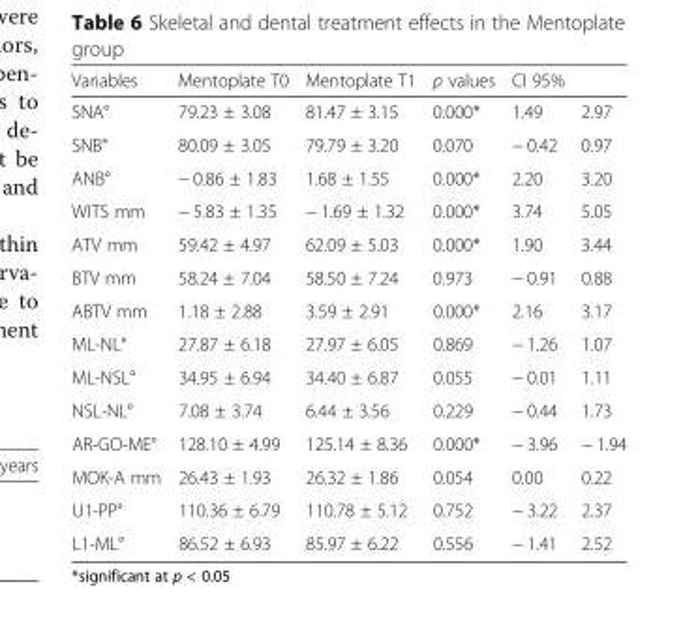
<table><thead><tr><td>Variables</td><td>Mentoplate T0</td><td>Mentoplate T1</td><td>p values</td><td>CI 95%</td><td></td></tr></thead><tbody><tr><td>SNA°</td><td>79.23 ± 3.08</td><td>81.47 ± 3.15</td><td>0.000*</td><td>1.49</td><td>2.97</td></tr><tr><td>SNB°</td><td>80.09 ± 3.05</td><td>79.79 ± 3.20</td><td>0.070</td><td>− 0.42</td><td>0.97</td></tr><tr><td>ANB°</td><td>− 0.86 ± 1.83</td><td>1.68 ± 1.55</td><td>0.000*</td><td>2.20</td><td>3.20</td></tr><tr><td>WITS mm</td><td>− 5.83 ± 1.35</td><td>− 1.69 ± 1.32</td><td>0.000*</td><td>3.74</td><td>5.05</td></tr><tr><td>ATV mm</td><td>59.42 ± 4.97</td><td>62.09 ± 5.03</td><td>0.000*</td><td>1.90</td><td>3.44</td></tr><tr><td>BTV mm</td><td>58.24 ± 7.04</td><td>58.50 ± 7.24</td><td>0.973</td><td>− 0.91</td><td>0.88</td></tr><tr><td>ABTV mm</td><td>1.18 ± 2.88</td><td>3.59 ± 2.91</td><td>0.000*</td><td>2.16</td><td>3.17</td></tr><tr><td>ML-NL°</td><td>27.87 ± 6.18</td><td>27.97 ± 6.05</td><td>0.869</td><td>− 1.26</td><td>1.07</td></tr><tr><td>ML-NSL°</td><td>34.95 ± 6.94</td><td>34.40 ± 6.87</td><td>0.055</td><td>− 0.01</td><td>1.11</td></tr><tr><td>NSL-NL°</td><td>7.08 ± 3.74</td><td>6.44 ± 3.56</td><td>0.229</td><td>− 0.44</td><td>1.73</td></tr><tr><td>AR-GO-ME°</td><td>128.10 ± 4.99</td><td>125.14 ± 8.36</td><td>0.000*</td><td>− 3.96</td><td>− 1.94</td></tr><tr><td>MOK-A mm</td><td>26.43 ± 1.93</td><td>26.32 ± 1.86</td><td>0.054</td><td>0.00</td><td>0.22</td></tr><tr><td>U1-PP°</td><td>110.36 ± 6.79</td><td>110.78 ± 5.12</td><td>0.752</td><td>− 3.22</td><td>2.37</td></tr><tr><td>L1-ML°</td><td>86.52 ± 6.93</td><td>85.97 ± 6.22</td><td>0.556</td><td>− 1.41</td><td>2.52</td></tr></tbody></table>